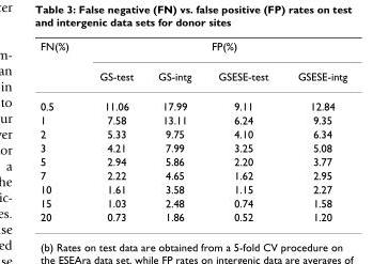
<table><thead><tr><td rowspan="2">FN(%)</td><td colspan="4">FP(%)</td></tr><tr><td>GS-test</td><td>GS-intg</td><td>GSESE-test</td><td>GSESE-intg</td></tr></thead><tbody><tr><td>0.5</td><td>11.06</td><td>17.99</td><td>9.11</td><td>12.84</td></tr><tr><td>1</td><td>7.58</td><td>13.11</td><td>6.24</td><td>9.35</td></tr><tr><td>2</td><td>5.33</td><td>9.75</td><td>4.10</td><td>6.34</td></tr><tr><td>3</td><td>4.21</td><td>7.99</td><td>3.25</td><td>5.08</td></tr><tr><td>5</td><td>2.94</td><td>5.86</td><td>2.20</td><td>3.77</td></tr><tr><td>7</td><td>2.22</td><td>4.65</td><td>1.62</td><td>2.95</td></tr><tr><td>10</td><td>1.61</td><td>3.58</td><td>1.15</td><td>2.27</td></tr><tr><td>15</td><td>1.03</td><td>2.48</td><td>0.74</td><td>1.58</td></tr><tr><td>20</td><td>0.73</td><td>1.86</td><td>0.52</td><td>1.20</td></tr></tbody></table>